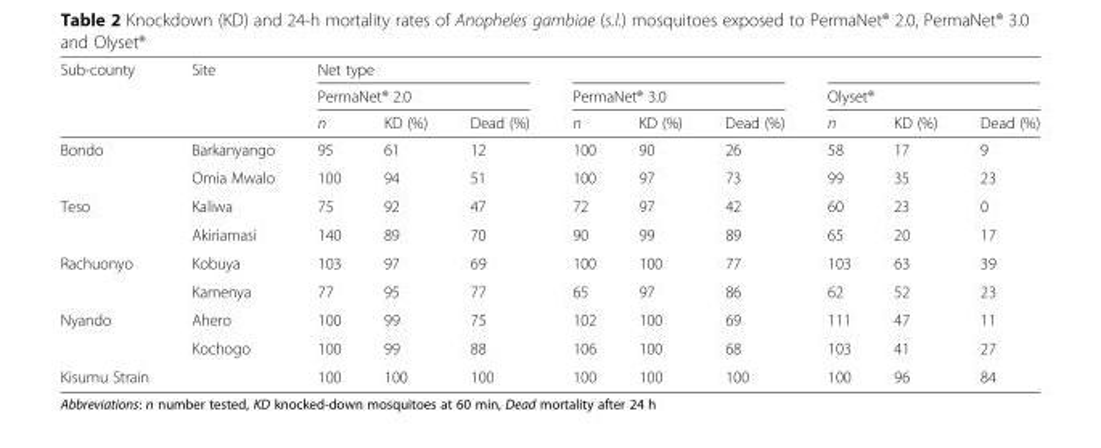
<table><thead><tr><td rowspan="3">Sub-county</td><td rowspan="3">Site</td><td rowspan="2" colspan="3">Net type PermaNet® 2.0</td><td></td><td></td><td></td><td></td><td></td><td></td></tr><tr><td colspan="3">PermaNet® 3.0</td><td colspan="3">Olyset®</td></tr><tr><td>n</td><td>KD (%)</td><td>Dead (%)</td><td>n</td><td>KD (%)</td><td>Dead (%)</td><td>n</td><td>KD (%)</td><td>Dead (%)</td></tr></thead><tbody><tr><td rowspan="2">Bondo</td><td>Barkanyango</td><td>95</td><td>61</td><td>12</td><td>100</td><td>90</td><td>26</td><td>58</td><td>17</td><td>9</td></tr><tr><td>Omia Mwalo</td><td>100</td><td>94</td><td>51</td><td>100</td><td>97</td><td>73</td><td>99</td><td>35</td><td>23</td></tr><tr><td rowspan="2">Teso</td><td>Kaliwa</td><td>75</td><td>92</td><td>47</td><td>72</td><td>97</td><td>42</td><td>60</td><td>23</td><td>0</td></tr><tr><td>Akiriamasi</td><td>140</td><td>89</td><td>70</td><td>90</td><td>99</td><td>89</td><td>65</td><td>20</td><td>17</td></tr><tr><td rowspan="2">Rachuonyo</td><td>Kobuya</td><td>103</td><td>97</td><td>69</td><td>100</td><td>100</td><td>77</td><td>103</td><td>63</td><td>39</td></tr><tr><td>Kamenya</td><td>77</td><td>95</td><td>77</td><td>65</td><td>97</td><td>86</td><td>62</td><td>52</td><td>23</td></tr><tr><td rowspan="2">Nyando</td><td>Ahero</td><td>100</td><td>99</td><td>75</td><td>102</td><td>100</td><td>69</td><td>111</td><td>47</td><td>11</td></tr><tr><td>Kochogo</td><td>100</td><td>99</td><td>88</td><td>106</td><td>100</td><td>68</td><td>103</td><td>41</td><td>27</td></tr><tr><td>Kisumu Strain</td><td></td><td>100</td><td>100</td><td>100</td><td>100</td><td>100</td><td>100</td><td>100</td><td>96</td><td>84</td></tr></tbody></table>